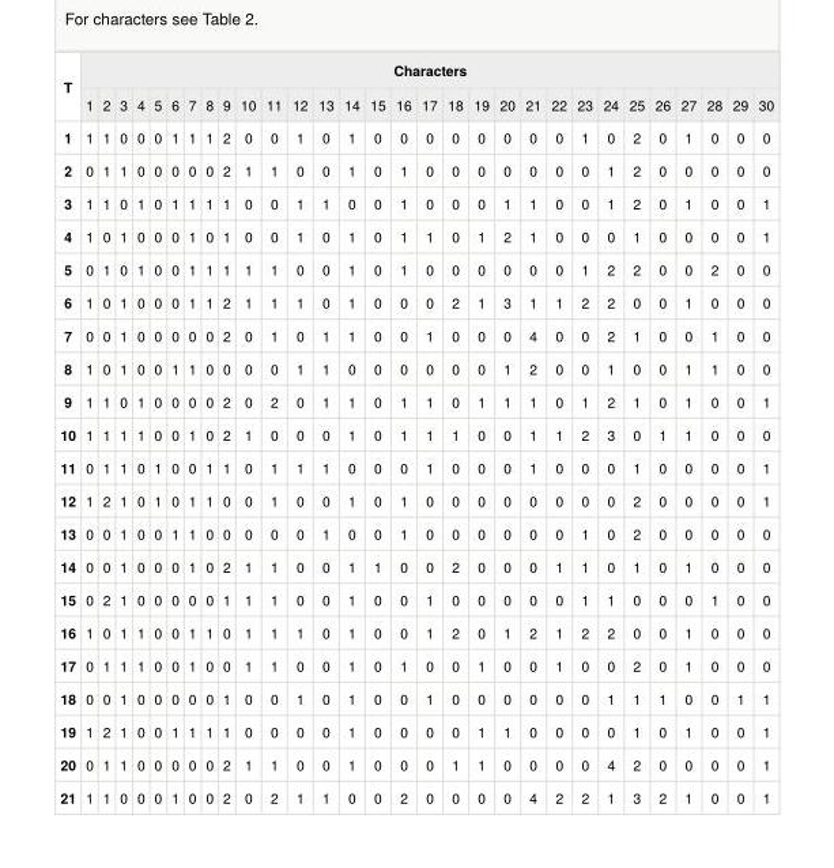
<table><tbody><tr><td rowspan="2">T</td><td colspan="30">Characters</td></tr><tr><td>1</td><td>2</td><td>3</td><td>4</td><td>5</td><td>6</td><td>7</td><td>8</td><td>9</td><td>10</td><td>11</td><td>12</td><td>13</td><td>14</td><td>15</td><td>16</td><td>17</td><td>18</td><td>19</td><td>20</td><td>21</td><td>22</td><td>23</td><td>24</td><td>25</td><td>26</td><td>27</td><td>28</td><td>29</td><td>30</td></tr><tr><td>1</td><td>1</td><td>1</td><td>0</td><td>0</td><td>0</td><td>1</td><td>1</td><td>1</td><td>2</td><td>0</td><td>0</td><td>1</td><td>0</td><td>1</td><td>0</td><td>0</td><td>0</td><td>0</td><td>0</td><td>0</td><td>0</td><td>0</td><td>1</td><td>0</td><td>2</td><td>0</td><td>1</td><td>0</td><td>0</td><td>0</td></tr><tr><td>2</td><td>0</td><td>1</td><td>1</td><td>0</td><td>0</td><td>0</td><td>0</td><td>0</td><td>2</td><td>1</td><td>1</td><td>0</td><td>0</td><td>1</td><td>0</td><td>1</td><td>0</td><td>0</td><td>0</td><td>0</td><td>0</td><td>0</td><td>0</td><td>1</td><td>2</td><td>0</td><td>0</td><td>0</td><td>0</td><td>0</td></tr><tr><td>3</td><td>1</td><td>1</td><td>0</td><td>1</td><td>0</td><td>1</td><td>1</td><td>1</td><td>1</td><td>0</td><td>0</td><td>1</td><td>1</td><td>0</td><td>0</td><td>1</td><td>0</td><td>0</td><td>0</td><td>1</td><td>1</td><td>0</td><td>0</td><td>1</td><td>2</td><td>0</td><td>1</td><td>0</td><td>0</td><td>1</td></tr><tr><td>4</td><td>1</td><td>0</td><td>1</td><td>0</td><td>0</td><td>0</td><td>1</td><td>0</td><td>1</td><td>0</td><td>0</td><td>1</td><td>0</td><td>1</td><td>0</td><td>1</td><td>1</td><td>0</td><td>1</td><td>2</td><td>1</td><td>0</td><td>0</td><td>0</td><td>1</td><td>0</td><td>0</td><td>0</td><td>0</td><td>1</td></tr><tr><td>5</td><td>0</td><td>1</td><td>0</td><td>1</td><td>0</td><td>0</td><td>1</td><td>1</td><td>1</td><td>1</td><td>1</td><td>0</td><td>0</td><td>1</td><td>0</td><td>1</td><td>0</td><td>0</td><td>0</td><td>0</td><td>0</td><td>0</td><td>1</td><td>2</td><td>2</td><td>0</td><td>0</td><td>2</td><td>0</td><td>0</td></tr><tr><td>6</td><td>1</td><td>0</td><td>1</td><td>0</td><td>0</td><td>0</td><td>1</td><td>1</td><td>2</td><td>1</td><td>1</td><td>1</td><td>0</td><td>1</td><td>0</td><td>0</td><td>0</td><td>2</td><td>1</td><td>3</td><td>1</td><td>1</td><td>2</td><td>2</td><td>0</td><td>0</td><td>1</td><td>0</td><td>0</td><td>0</td></tr><tr><td>7</td><td>0</td><td>0</td><td>1</td><td>0</td><td>0</td><td>0</td><td>0</td><td>0</td><td>2</td><td>0</td><td>1</td><td>0</td><td>1</td><td>1</td><td>0</td><td>0</td><td>1</td><td>0</td><td>0</td><td>0</td><td>4</td><td>0</td><td>0</td><td>2</td><td>1</td><td>0</td><td>0</td><td>1</td><td>0</td><td>0</td></tr><tr><td>8</td><td>1</td><td>0</td><td>1</td><td>0</td><td>0</td><td>1</td><td>1</td><td>0</td><td>0</td><td>0</td><td>0</td><td>1</td><td>1</td><td>0</td><td>0</td><td>0</td><td>0</td><td>0</td><td>0</td><td>1</td><td>2</td><td>0</td><td>0</td><td>1</td><td>0</td><td>0</td><td>1</td><td>1</td><td>0</td><td>0</td></tr><tr><td>9</td><td>1</td><td>1</td><td>0</td><td>1</td><td>0</td><td>0</td><td>0</td><td>0</td><td>2</td><td>0</td><td>2</td><td>0</td><td>1</td><td>1</td><td>0</td><td>1</td><td>1</td><td>0</td><td>1</td><td>1</td><td>1</td><td>0</td><td>1</td><td>2</td><td>1</td><td>0</td><td>1</td><td>0</td><td>0</td><td>1</td></tr><tr><td>10</td><td>1</td><td>1</td><td>1</td><td>1</td><td>0</td><td>0</td><td>1</td><td>0</td><td>2</td><td>1</td><td>0</td><td>0</td><td>0</td><td>1</td><td>0</td><td>1</td><td>1</td><td>1</td><td>0</td><td>0</td><td>1</td><td>1</td><td>2</td><td>3</td><td>0</td><td>1</td><td>1</td><td>0</td><td>0</td><td>0</td></tr><tr><td>11</td><td>0</td><td>1</td><td>1</td><td>0</td><td>1</td><td>0</td><td>0</td><td>1</td><td>1</td><td>0</td><td>1</td><td>1</td><td>1</td><td>0</td><td>0</td><td>0</td><td>1</td><td>0</td><td>0</td><td>0</td><td>1</td><td>0</td><td>0</td><td>0</td><td>1</td><td>0</td><td>0</td><td>0</td><td>0</td><td>1</td></tr><tr><td>12</td><td>1</td><td>2</td><td>1</td><td>0</td><td>1</td><td>0</td><td>1</td><td>1</td><td>0</td><td>0</td><td>1</td><td>0</td><td>0</td><td>1</td><td>0</td><td>1</td><td>0</td><td>0</td><td>0</td><td>0</td><td>0</td><td>0</td><td>0</td><td>0</td><td>2</td><td>0</td><td>0</td><td>0</td><td>0</td><td>1</td></tr><tr><td>13</td><td>0</td><td>0</td><td>1</td><td>0</td><td>0</td><td>1</td><td>1</td><td>0</td><td>0</td><td>0</td><td>0</td><td>0</td><td>1</td><td>0</td><td>0</td><td>1</td><td>0</td><td>0</td><td>0</td><td>0</td><td>0</td><td>0</td><td>1</td><td>0</td><td>2</td><td>0</td><td>0</td><td>0</td><td>0</td><td>0</td></tr><tr><td>14</td><td>0</td><td>0</td><td>1</td><td>0</td><td>0</td><td>0</td><td>1</td><td>0</td><td>2</td><td>1</td><td>1</td><td>0</td><td>0</td><td>1</td><td>1</td><td>0</td><td>0</td><td>2</td><td>0</td><td>0</td><td>0</td><td>1</td><td>1</td><td>0</td><td>1</td><td>0</td><td>1</td><td>0</td><td>0</td><td>0</td></tr><tr><td>15</td><td>0</td><td>2</td><td>1</td><td>0</td><td>0</td><td>0</td><td>0</td><td>0</td><td>1</td><td>1</td><td>1</td><td>0</td><td>0</td><td>1</td><td>0</td><td>0</td><td>1</td><td>0</td><td>0</td><td>0</td><td>0</td><td>0</td><td>1</td><td>1</td><td>0</td><td>0</td><td>0</td><td>1</td><td>0</td><td>0</td></tr><tr><td>16</td><td>1</td><td>0</td><td>1</td><td>1</td><td>0</td><td>0</td><td>1</td><td>1</td><td>0</td><td>1</td><td>1</td><td>1</td><td>0</td><td>1</td><td>0</td><td>0</td><td>1</td><td>2</td><td>0</td><td>1</td><td>2</td><td>1</td><td>2</td><td>2</td><td>0</td><td>0</td><td>1</td><td>0</td><td>0</td><td>0</td></tr><tr><td>17</td><td>0</td><td>1</td><td>1</td><td>1</td><td>0</td><td>0</td><td>1</td><td>0</td><td>0</td><td>1</td><td>1</td><td>0</td><td>0</td><td>1</td><td>0</td><td>1</td><td>0</td><td>0</td><td>1</td><td>0</td><td>0</td><td>1</td><td>0</td><td>0</td><td>2</td><td>0</td><td>1</td><td>0</td><td>0</td><td>0</td></tr><tr><td>18</td><td>0</td><td>0</td><td>1</td><td>0</td><td>0</td><td>0</td><td>0</td><td>0</td><td>1</td><td>0</td><td>0</td><td>1</td><td>0</td><td>1</td><td>0</td><td>0</td><td>1</td><td>0</td><td>0</td><td>0</td><td>0</td><td>0</td><td>0</td><td>1</td><td>1</td><td>1</td><td>0</td><td>0</td><td>1</td><td>1</td></tr><tr><td>19</td><td>1</td><td>2</td><td>1</td><td>0</td><td>0</td><td>1</td><td>1</td><td>1</td><td>1</td><td>0</td><td>0</td><td>0</td><td>0</td><td>1</td><td>0</td><td>0</td><td>0</td><td>0</td><td>1</td><td>1</td><td>0</td><td>0</td><td>0</td><td>0</td><td>1</td><td>0</td><td>1</td><td>0</td><td>0</td><td>1</td></tr><tr><td>20</td><td>0</td><td>1</td><td>1</td><td>0</td><td>0</td><td>0</td><td>0</td><td>0</td><td>2</td><td>1</td><td>1</td><td>0</td><td>0</td><td>1</td><td>0</td><td>0</td><td>0</td><td>1</td><td>1</td><td>0</td><td>0</td><td>0</td><td>0</td><td>4</td><td>2</td><td>0</td><td>0</td><td>0</td><td>0</td><td>1</td></tr><tr><td>21</td><td>1</td><td>1</td><td>0</td><td>0</td><td>0</td><td>1</td><td>0</td><td>0</td><td>2</td><td>0</td><td>2</td><td>1</td><td>1</td><td>0</td><td>0</td><td>2</td><td>0</td><td>0</td><td>0</td><td>0</td><td>4</td><td>2</td><td>2</td><td>1</td><td>3</td><td>2</td><td>1</td><td>0</td><td>0</td><td>1</td></tr></tbody></table>